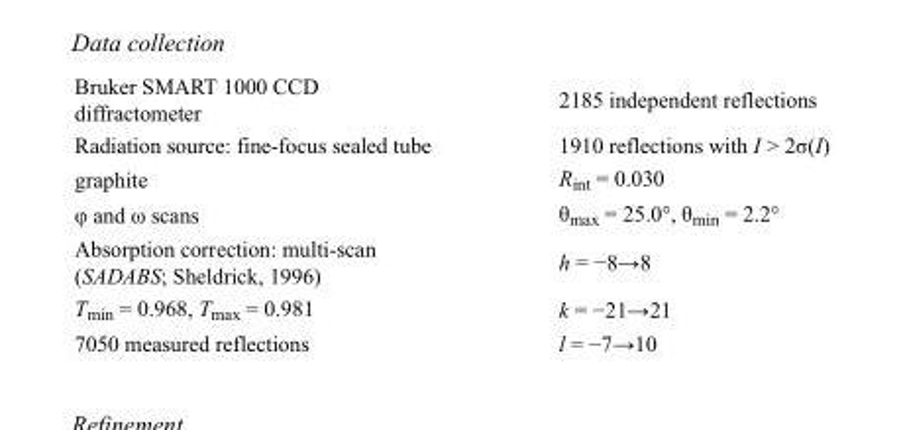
<table><tbody><tr><td>Bruker SMART 1000 CCD diffractometer</td><td>2185 independent reflections</td></tr><tr><td>Radiation source: fine-focus sealed tube</td><td>1910 reflections with I &gt; 2σ(I)</td></tr><tr><td>graphite</td><td>R<sub>int</sub> = 0.030</td></tr><tr><td>φ and ω scans</td><td>θ<sub>max</sub> = 25.0°, θ<sub>min</sub> = 2.2°</td></tr><tr><td>Absorption correction: multi-scan (SADABS; Sheldrick, 1996)</td><td>h = −8→8</td></tr><tr><td>T<sub>min</sub> = 0.968, T<sub>max</sub> = 0.981</td><td>k = −21→21</td></tr><tr><td>7050 measured reflections</td><td>l = −7→10</td></tr></tbody></table>